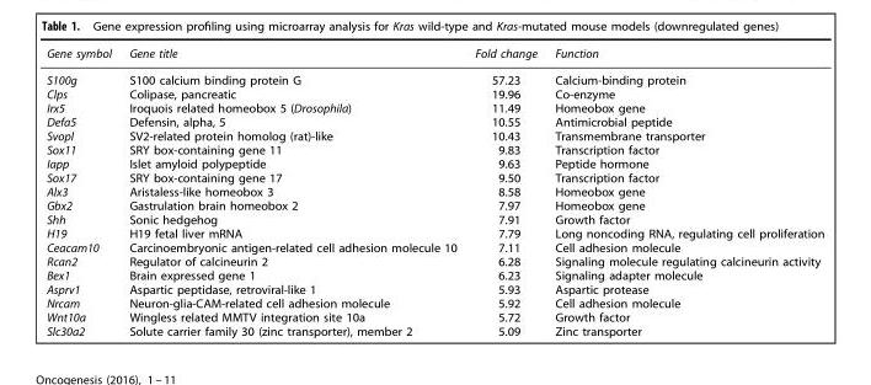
<table><thead><tr><td>Gene symbol</td><td>Gene title</td><td>Fold change</td><td>Function</td></tr></thead><tbody><tr><td>S100g</td><td>S100 calcium binding protein G</td><td>57.23</td><td>Calcium-binding protein</td></tr><tr><td>Clps</td><td>Colipase, pancreatic</td><td>19.96</td><td>Co-enzyme</td></tr><tr><td>Irx5</td><td>Iroquois related homeobox 5 (Drosophila)</td><td>11.49</td><td>Homeobox gene</td></tr><tr><td>Defa5</td><td>Defensin, alpha, 5</td><td>10.55</td><td>Antimicrobial peptide</td></tr><tr><td>Svopl</td><td>SV2-related protein homolog (rat)-like</td><td>10.43</td><td>Transmembrane transporter</td></tr><tr><td>Sox11</td><td>SRY box-containing gene 11</td><td>9.83</td><td>Transcription factor</td></tr><tr><td>Iapp</td><td>Islet amyloid polypeptide</td><td>9.63</td><td>Peptide hormone</td></tr><tr><td>Sox17</td><td>SRY box-containing gene 17</td><td>9.50</td><td>Transcription factor</td></tr><tr><td>Alx3</td><td>Aristaless-like homeobox 3</td><td>8.58</td><td>Homeobox gene</td></tr><tr><td>Gbx2</td><td>Gastrulation brain homeobox 2</td><td>7.97</td><td>Homeobox gene</td></tr><tr><td>Shh</td><td>Sonic hedgehog</td><td>7.91</td><td>Growth factor</td></tr><tr><td>H19</td><td>H19 fetal liver mRNA</td><td>7.79</td><td>Long noncoding RNA, regulating cell proliferation</td></tr><tr><td>Ceacam10</td><td>Carcinoembryonic antigen-related cell adhesion molecule 10</td><td>7.11</td><td>Cell adhesion molecule</td></tr><tr><td>Rcan2</td><td>Regulator of calcineurin 2</td><td>6.28</td><td>Signaling molecule regulating calcineurin activity</td></tr><tr><td>Bex1</td><td>Brain expressed gene 1</td><td>6.23</td><td>Signaling adapter molecule</td></tr><tr><td>Asprv1</td><td>Aspartic peptidase, retroviral-like 1</td><td>5.93</td><td>Aspartic protease</td></tr><tr><td>Nrcam</td><td>Neuron-glia-CAM-related cell adhesion molecule</td><td>5.92</td><td>Cell adhesion molecule</td></tr><tr><td>Wnt10a</td><td>Wingless related MMTV integration site 10a</td><td>5.72</td><td>Growth factor</td></tr><tr><td>Slc30a2</td><td>Solute carrier family 30 (zinc transporter), member 2</td><td>5.09</td><td>Zinc transporter</td></tr></tbody></table>